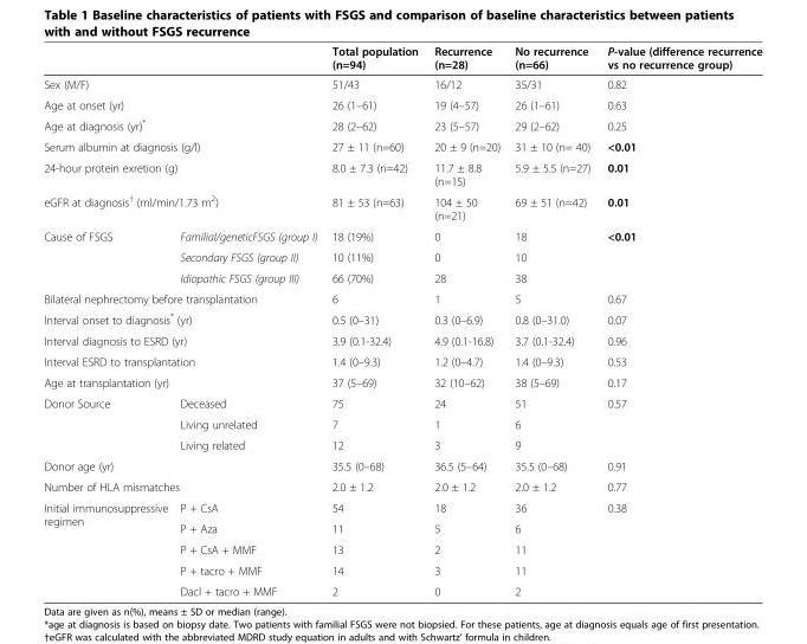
<table><thead><tr><td></td><td></td><td>Total population (n=94)</td><td>Recurrence (n=28)</td><td>No recurrence (n=66)</td><td>P-value (difference recurrence vs no recurrence group)</td></tr></thead><tbody><tr><td colspan="2">Sex (M/F)</td><td>51/43</td><td>16/12</td><td>35/31</td><td>0.82</td></tr><tr><td colspan="2">Age at onset (yr)</td><td>26 (1–61)</td><td>19 (4–57)</td><td>26 (1–61)</td><td>0.63</td></tr><tr><td colspan="2">Age at diagnosis (yr)*</td><td>28 (2–62)</td><td>23 (5–57)</td><td>29 (2–62)</td><td>0.25</td></tr><tr><td colspan="2">Serum albumin at diagnosis (g/l)</td><td>27 ± 11 (n=60)</td><td>20 ± 9 (n=20)</td><td>31 ± 10 (n= 40)</td><td>&lt;0.01</td></tr><tr><td colspan="2">24-hour protein exretion (g)</td><td>8.0 ± 7.3 (n=42)</td><td>11.7 ± 8.8 (n=15)</td><td>5.9 ± 5.5 (n=27)</td><td>0.01</td></tr><tr><td colspan="2">eGFR at diagnosis<sup>†</sup> (ml/min/1.73 m<sup>2</sup>)</td><td>81 ± 53 (n=63)</td><td>104 ± 50 (n=21)</td><td>69 ± 51 (n=42)</td><td>0.01</td></tr><tr><td rowspan="3">Cause of FSGS</td><td>Familial/geneticFSGS (group I)</td><td>18 (19%)</td><td>0</td><td>18</td><td rowspan="3">&lt;0.01</td></tr><tr><td>Secondary FSGS (group II)</td><td>10 (11%)</td><td>0</td><td>10</td></tr><tr><td>Idiopathic FSGS (group III)</td><td>66 (70%)</td><td>28</td><td>38</td></tr><tr><td colspan="2">Bilateral nephrectomy before transplantation</td><td>6</td><td>1</td><td>5</td><td>0.67</td></tr><tr><td colspan="2">Interval onset to diagnosis* (yr)</td><td>0.5 (0–31)</td><td>0.3 (0–6.9)</td><td>0.8 (0–31.0)</td><td>0.07</td></tr><tr><td colspan="2">Interval diagnosis to ESRD (yr)</td><td>3.9 (0.1-32.4)</td><td>4.9 (0.1-16.8)</td><td>3.7 (0.1-32.4)</td><td>0.96</td></tr><tr><td colspan="2">Interval ESRD to transplantation</td><td>1.4 (0–9.3)</td><td>1.2 (0–4.7)</td><td>1.4 (0–9.3)</td><td>0.53</td></tr><tr><td colspan="2">Age at transplantation (yr)</td><td>37 (5–69)</td><td>32 (10–62)</td><td>38 (5–69)</td><td>0.17</td></tr><tr><td rowspan="3">Donor Source</td><td>Deceased</td><td>75</td><td>24</td><td>51</td><td rowspan="3">0.57</td></tr><tr><td>Living unrelated</td><td>7</td><td>1</td><td>6</td></tr><tr><td>Living related</td><td>12</td><td>3</td><td>9</td></tr><tr><td colspan="2">Donor age (yr)</td><td>35.5 (0–68)</td><td>36.5 (5–64)</td><td>35.5 (0–68)</td><td>0.91</td></tr><tr><td colspan="2">Number of HLA mismatches</td><td>2.0 ± 1.2</td><td>2.0 ± 1.2</td><td>2.0 ± 1.2</td><td>0.77</td></tr><tr><td rowspan="5">Initial immunosuppressive regimen</td><td>P + CsA</td><td>54</td><td>18</td><td>36</td><td rowspan="5">0.38</td></tr><tr><td>P + Aza</td><td>11</td><td>5</td><td>6</td></tr><tr><td>P + CsA + MMF</td><td>13</td><td>2</td><td>11</td></tr><tr><td>P + tacro + MMF</td><td>14</td><td>3</td><td>11</td></tr><tr><td>Dacl + tacro + MMF</td><td>2</td><td>0</td><td>2</td></tr></tbody></table>